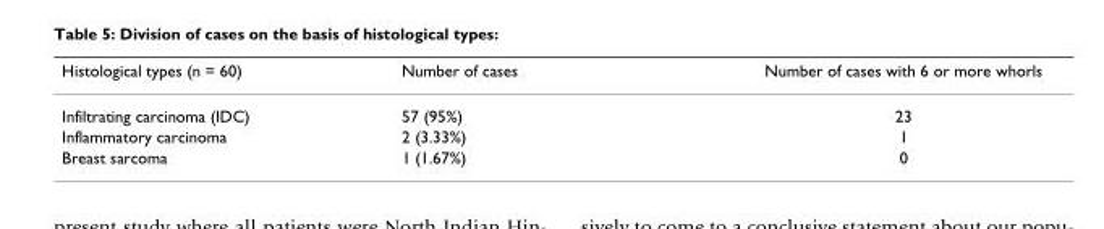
<table><thead><tr><td>Histological types (n = 60)</td><td>Number of cases</td><td>Number of cases with 6 or more whorls</td></tr></thead><tbody><tr><td>Infiltrating carcinoma (IDC)</td><td>57 (95%)</td><td>23</td></tr><tr><td>Inflammatory carcinoma</td><td>2 (3.33%)</td><td>1</td></tr><tr><td>Breast sarcoma</td><td>1 (1.67%)</td><td>0</td></tr></tbody></table>